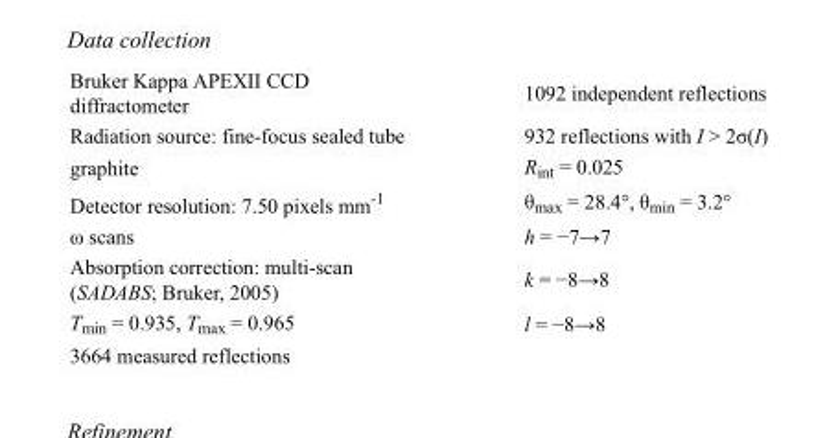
<table><tbody><tr><td>Bruker Kappa APEXII CCD diffractometer</td><td>1092 independent reflections</td></tr><tr><td>Radiation source: fine-focus sealed tube</td><td>932 reflections with I &gt; 2σ(I)</td></tr><tr><td>graphite</td><td>R<sub>int</sub> = 0.025</td></tr><tr><td>Detector resolution: 7.50 pixels mm<sup>-1</sup></td><td>θ<sub>max</sub> = 28.4°, θ<sub>min</sub> = 3.2°</td></tr><tr><td>ω scans</td><td>h = −7→7</td></tr><tr><td>Absorption correction: multi-scan (SADABS; Bruker, 2005)</td><td>k = −8→8</td></tr><tr><td>T<sub>min</sub> = 0.935, T<sub>max</sub> = 0.965</td><td>l = −8→8</td></tr><tr><td>3664 measured reflections</td><td></td></tr></tbody></table>